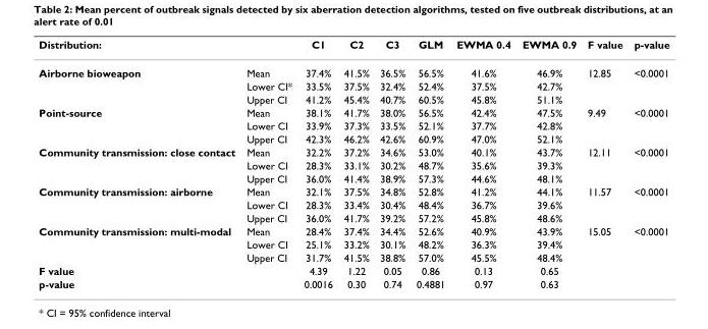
<table><thead><tr><td colspan="2">Distribution:</td><td rowspan="2">C1 37.4%</td><td rowspan="2">C2 41.5%</td><td rowspan="2">C3 36.5%</td><td rowspan="2">GLM 56.5%</td><td rowspan="2">EWMA 0.4 41.6%</td><td rowspan="2">EWMA 0.9 46.9%</td><td rowspan="2">F value 12.85</td><td rowspan="2">p-value &lt;0.0001</td></tr><tr><td>Airborne bioweapon</td><td>Mean</td></tr></thead><tbody><tr><td></td><td>Lower CI*</td><td>33.5%</td><td>37.5%</td><td>32.4%</td><td>52.4%</td><td>37.5%</td><td>42.7%</td><td></td><td></td></tr><tr><td></td><td>Upper CI</td><td>41.2%</td><td>45.4%</td><td>40.7%</td><td>60.5%</td><td>45.8%</td><td>51.1%</td><td></td><td></td></tr><tr><td rowspan="3">Point-source</td><td>Mean</td><td>38.1%</td><td>41.7%</td><td>38.0%</td><td>56.5%</td><td>42.4%</td><td>47.5%</td><td>9.49</td><td>&lt;0.0001</td></tr><tr><td>Lower CI</td><td>33.9%</td><td>37.3%</td><td>33.5%</td><td>52.1%</td><td>37.7%</td><td>42.8%</td><td></td><td></td></tr><tr><td>Upper CI</td><td>42.3%</td><td>46.2%</td><td>42.6%</td><td>60.9%</td><td>47.0%</td><td>52.1%</td><td></td><td></td></tr><tr><td rowspan="3">Community transmission: close contact</td><td>Mean</td><td>32.2%</td><td>37.2%</td><td>34.6%</td><td>53.0%</td><td>40.1%</td><td>43.7%</td><td>12.11</td><td>&lt;0.0001</td></tr><tr><td>Lower CI</td><td>28.3%</td><td>33.1%</td><td>30.2%</td><td>48.7%</td><td>35.6%</td><td>39.3%</td><td></td><td></td></tr><tr><td>Upper CI</td><td>36.0%</td><td>41.4%</td><td>38.9%</td><td>57.3%</td><td>44.6%</td><td>48.1%</td><td></td><td></td></tr><tr><td rowspan="3">Community transmission: airborne</td><td>Mean</td><td>32.1%</td><td>37.5%</td><td>34.8%</td><td>52.8%</td><td>41.2%</td><td>44.1%</td><td>11.57</td><td>&lt;0.0001</td></tr><tr><td>Lower CI</td><td>28.3%</td><td>33.4%</td><td>30.4%</td><td>48.4%</td><td>36.7%</td><td>39.6%</td><td></td><td></td></tr><tr><td>Upper CI</td><td>36.0%</td><td>41.7%</td><td>39.2%</td><td>57.2%</td><td>45.8%</td><td>48.6%</td><td></td><td></td></tr><tr><td rowspan="3">Community transmission: multi-modal</td><td>Mean</td><td>28.4%</td><td>37.4%</td><td>34.4%</td><td>52.6%</td><td>40.9%</td><td>43.9%</td><td>15.05</td><td>&lt;0.0001</td></tr><tr><td>Lower CI</td><td>25.1%</td><td>33.2%</td><td>30.1%</td><td>48.2%</td><td>36.3%</td><td>39.4%</td><td></td><td></td></tr><tr><td>Upper CI</td><td>31.7%</td><td>41.5%</td><td>38.8%</td><td>57.0%</td><td>45.5%</td><td>48.4%</td><td></td><td></td></tr><tr><td colspan="2">F value</td><td>4.39</td><td>1.22</td><td>0.05</td><td>0.86</td><td>0.13</td><td>0.65</td><td></td><td></td></tr><tr><td colspan="2">p-value</td><td>0.0016</td><td>0.30</td><td>0.74</td><td>0.4881</td><td>0.97</td><td>0.63</td><td></td><td></td></tr></tbody></table>